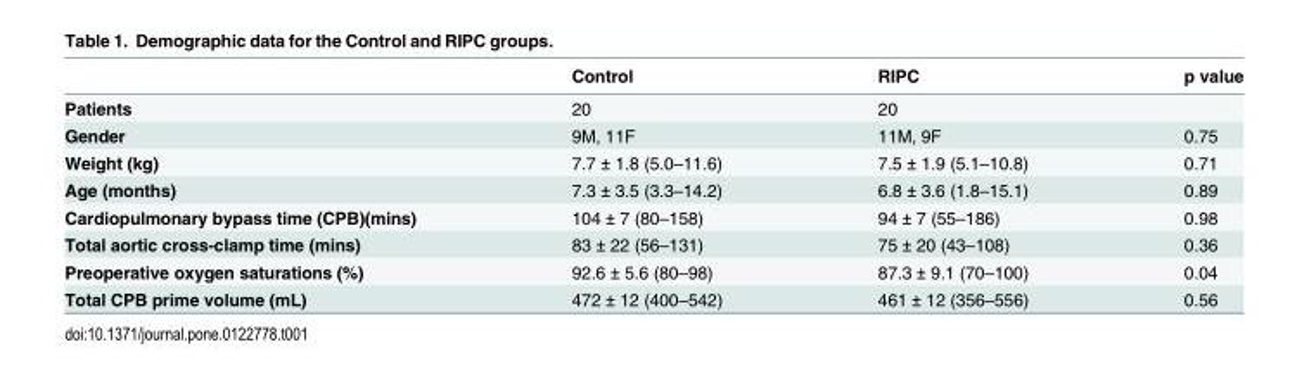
<table><thead><tr><td></td><td>Control</td><td>RIPC</td><td>p value</td></tr></thead><tbody><tr><td>Patients</td><td>20</td><td>20</td><td></td></tr><tr><td>Gender</td><td>9M, 11F</td><td>11M, 9F</td><td>0.75</td></tr><tr><td>Weight (kg)</td><td>7.7 ± 1.8 (5.0–11.6)</td><td>7.5 ± 1.9 (5.1–10.8)</td><td>0.71</td></tr><tr><td>Age (months)</td><td>7.3 ± 3.5 (3.3–14.2)</td><td>6.8 ± 3.6 (1.8–15.1)</td><td>0.89</td></tr><tr><td>Cardiopulmonary bypass time (CPB)(mins)</td><td>104 ± 7 (80–158)</td><td>94 ± 7 (55–186)</td><td>0.98</td></tr><tr><td>Total aortic cross-clamp time (mins)</td><td>83 ± 22 (56–131)</td><td>75 ± 20 (43–108)</td><td>0.36</td></tr><tr><td>Preoperative oxygen saturations (%)</td><td>92.6 ± 5.6 (80–98)</td><td>87.3 ± 9.1 (70–100)</td><td>0.04</td></tr><tr><td>Total CPB prime volume (mL)</td><td>472 ± 12 (400–542)</td><td>461 ± 12 (356–556)</td><td>0.56</td></tr></tbody></table>